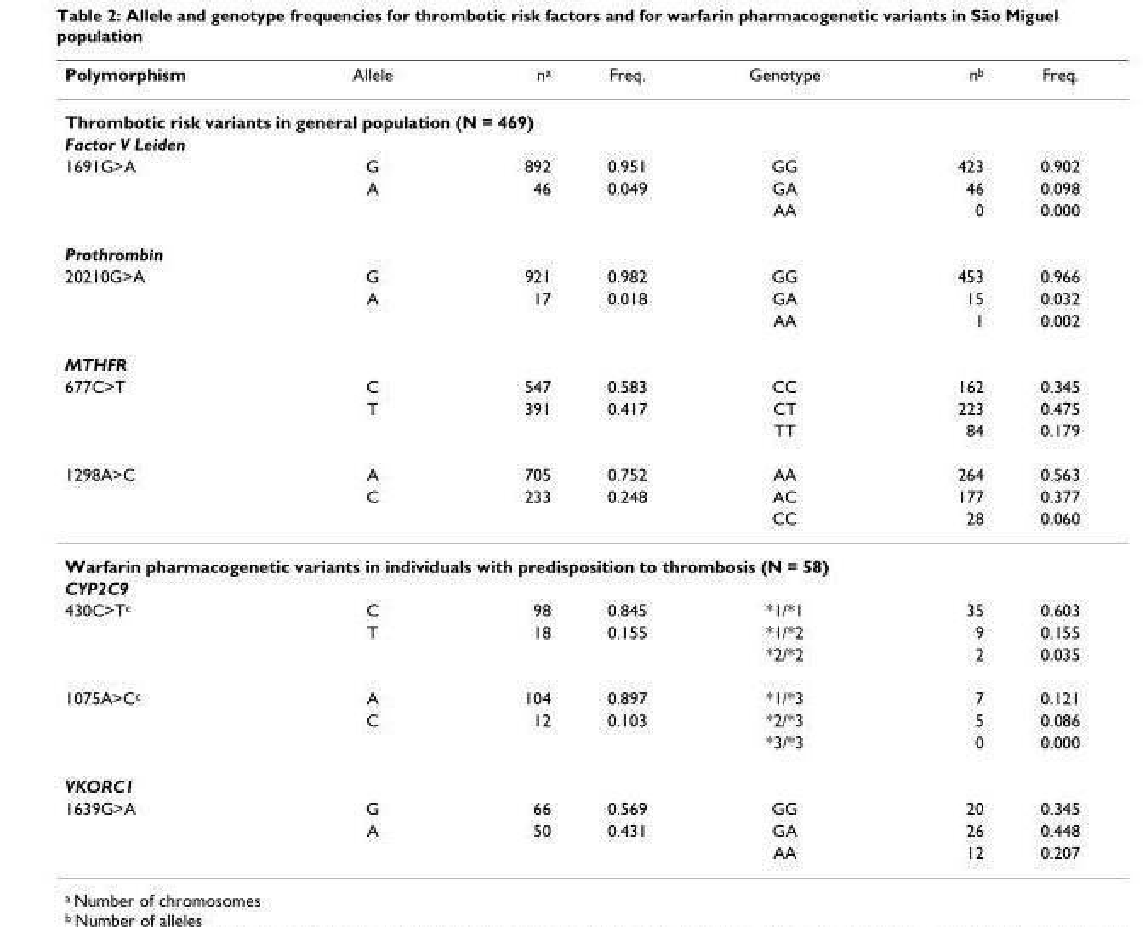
<table><thead><tr><td>Polymorphism</td><td>Allele</td><td>n<sup>a</sup></td><td>Freq.</td><td>Genotype</td><td>n<sup>b</sup></td><td>Freq.</td></tr></thead><tbody><tr><td colspan="7">Thrombotic risk variants in general population (N = 469)</td></tr><tr><td colspan="7">Factor V Leiden</td></tr><tr><td rowspan="3">1691G&gt;A</td><td>G</td><td>892</td><td>0.951</td><td>GG</td><td>423</td><td>0.902</td></tr><tr><td>A</td><td>46</td><td>0.049</td><td>GA</td><td>46</td><td>0.098</td></tr><tr><td></td><td></td><td></td><td>AA</td><td>0</td><td>0.000</td></tr><tr><td colspan="7">Prothrombin</td></tr><tr><td rowspan="3">20210G&gt;A</td><td>G</td><td>921</td><td>0.982</td><td>GG</td><td>453</td><td>0.966</td></tr><tr><td>A</td><td>17</td><td>0.018</td><td>GA</td><td>15</td><td>0.032</td></tr><tr><td></td><td></td><td></td><td>AA</td><td>1</td><td>0.002</td></tr><tr><td colspan="7">MTHFR</td></tr><tr><td rowspan="3">677C&gt;T</td><td>C</td><td>547</td><td>0.583</td><td>CC</td><td>162</td><td>0.345</td></tr><tr><td>T</td><td>391</td><td>0.417</td><td>CT</td><td>223</td><td>0.475</td></tr><tr><td></td><td></td><td></td><td>TT</td><td>84</td><td>0.179</td></tr><tr><td rowspan="3">1298A&gt;C</td><td>A</td><td>705</td><td>0.752</td><td>AA</td><td>264</td><td>0.563</td></tr><tr><td>C</td><td>233</td><td>0.248</td><td>AC</td><td>177</td><td>0.377</td></tr><tr><td></td><td></td><td></td><td>CC</td><td>28</td><td>0.060</td></tr><tr><td colspan="7">Warfarin pharmacogenetic variants in individuals with predisposition to thrombosis (N = 58)</td></tr><tr><td colspan="7">CYP2C9</td></tr><tr><td rowspan="3">430C&gt;T<sup>c</sup></td><td>C</td><td>98</td><td>0.845</td><td>*1/*1</td><td>35</td><td>0.603</td></tr><tr><td>T</td><td>18</td><td>0.155</td><td>*1/*2</td><td>9</td><td>0.155</td></tr><tr><td></td><td></td><td></td><td>*2/*2</td><td>2</td><td>0.035</td></tr><tr><td rowspan="3">1075A&gt;C<sup>c</sup></td><td>A</td><td>104</td><td>0.897</td><td>*1/*3</td><td>7</td><td>0.121</td></tr><tr><td>C</td><td>12</td><td>0.103</td><td>*2/*3</td><td>5</td><td>0.086</td></tr><tr><td></td><td></td><td></td><td>*3/*3</td><td>0</td><td>0.000</td></tr><tr><td colspan="7">VKORC1</td></tr><tr><td rowspan="3">1639G&gt;A</td><td>G</td><td>66</td><td>0.569</td><td>GG</td><td>20</td><td>0.345</td></tr><tr><td>A</td><td>50</td><td>0.431</td><td>GA</td><td>26</td><td>0.448</td></tr><tr><td></td><td></td><td></td><td>AA</td><td>12</td><td>0.207</td></tr></tbody></table>